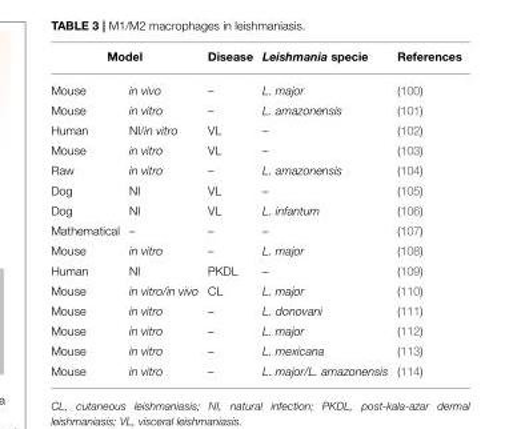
<table><thead><tr><td colspan="2">Model</td><td rowspan="2">Disease –</td><td rowspan="2">Leishmania specie L. major</td><td rowspan="2">References (100)</td></tr><tr><td>Mouse</td><td>in vivo</td></tr></thead><tbody><tr><td>Mouse</td><td>in vitro</td><td>–</td><td>L. amazonensis</td><td>(101)</td></tr><tr><td>Human</td><td>NI/in vitro</td><td>VL</td><td>–</td><td>(102)</td></tr><tr><td>Mouse</td><td>in vitro</td><td>VL</td><td>–</td><td>(103)</td></tr><tr><td>Raw</td><td>in vitro</td><td>–</td><td>L. amazonensis</td><td>(104)</td></tr><tr><td>Dog</td><td>NI</td><td>VL</td><td>–</td><td>(105)</td></tr><tr><td>Dog</td><td>NI</td><td>VL</td><td>L. infantum</td><td>(106)</td></tr><tr><td>Mathematical</td><td>–</td><td>–</td><td>–</td><td>(107)</td></tr><tr><td>Mouse</td><td>in vitro</td><td>–</td><td>L. major</td><td>(108)</td></tr><tr><td>Human</td><td>NI</td><td>PKDL</td><td>–</td><td>(109)</td></tr><tr><td>Mouse</td><td>in vitro/in vivo</td><td>CL</td><td>L. major</td><td>(110)</td></tr><tr><td>Mouse</td><td>in vitro</td><td>–</td><td>L. donovani</td><td>(111)</td></tr><tr><td>Mouse</td><td>in vitro</td><td>–</td><td>L. major</td><td>(112)</td></tr><tr><td>Mouse</td><td>in vitro</td><td>–</td><td>L. mexicana</td><td>(113)</td></tr><tr><td>Mouse</td><td>in vitro</td><td>–</td><td>L. major/L. amazonensis</td><td>(114)</td></tr></tbody></table>